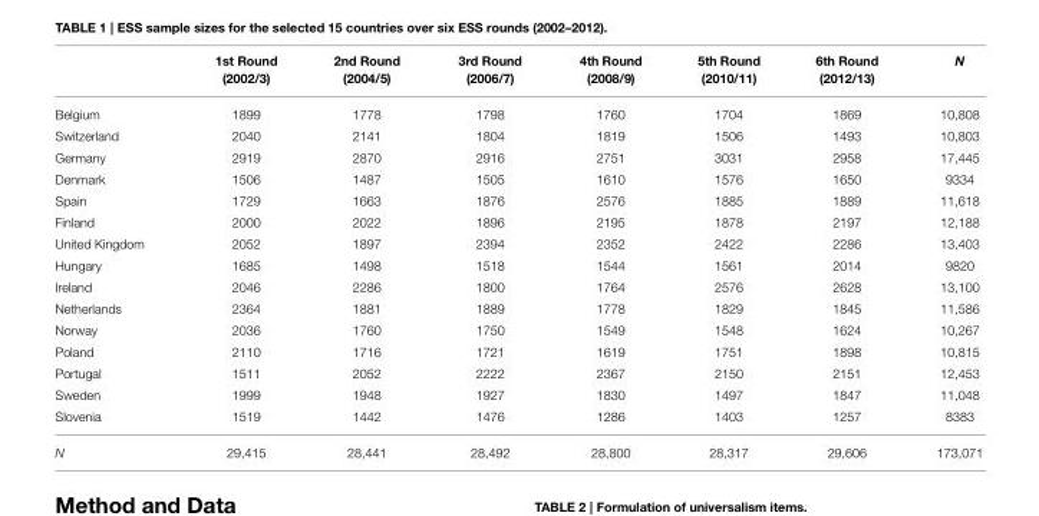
<table><thead><tr><td></td><td>1st Round (2002/3)</td><td>2nd Round (2004/5)</td><td>3rd Round (2006/7)</td><td>4th Round (2008/9)</td><td>5th Round (2010/11)</td><td>6th Round (2012/13)</td><td>N</td></tr></thead><tbody><tr><td>Belgium</td><td>1899</td><td>1778</td><td>1798</td><td>1760</td><td>1704</td><td>1869</td><td>10,808</td></tr><tr><td>Switzerland</td><td>2040</td><td>2141</td><td>1804</td><td>1819</td><td>1506</td><td>1493</td><td>10,803</td></tr><tr><td>Germany</td><td>2919</td><td>2870</td><td>2916</td><td>2751</td><td>3031</td><td>2958</td><td>17,445</td></tr><tr><td>Denmark</td><td>1506</td><td>1487</td><td>1505</td><td>1610</td><td>1576</td><td>1650</td><td>9334</td></tr><tr><td>Spain</td><td>1729</td><td>1663</td><td>1876</td><td>2576</td><td>1885</td><td>1889</td><td>11,618</td></tr><tr><td>Finland</td><td>2000</td><td>2022</td><td>1896</td><td>2195</td><td>1878</td><td>2197</td><td>12,188</td></tr><tr><td>United Kingdom</td><td>2052</td><td>1897</td><td>2394</td><td>2352</td><td>2422</td><td>2286</td><td>13,403</td></tr><tr><td>Hungary</td><td>1685</td><td>1498</td><td>1518</td><td>1544</td><td>1561</td><td>2014</td><td>9820</td></tr><tr><td>Ireland</td><td>2046</td><td>2286</td><td>1800</td><td>1764</td><td>2576</td><td>2628</td><td>13,100</td></tr><tr><td>Netherlands</td><td>2364</td><td>1881</td><td>1889</td><td>1778</td><td>1829</td><td>1845</td><td>11,586</td></tr><tr><td>Norway</td><td>2036</td><td>1760</td><td>1750</td><td>1549</td><td>1548</td><td>1624</td><td>10,267</td></tr><tr><td>Poland</td><td>2110</td><td>1716</td><td>1721</td><td>1619</td><td>1751</td><td>1898</td><td>10,815</td></tr><tr><td>Portugal</td><td>1511</td><td>2052</td><td>2222</td><td>2367</td><td>2150</td><td>2151</td><td>12,453</td></tr><tr><td>Sweden</td><td>1999</td><td>1948</td><td>1927</td><td>1830</td><td>1497</td><td>1847</td><td>11,048</td></tr><tr><td>Slovenia</td><td>1519</td><td>1442</td><td>1476</td><td>1286</td><td>1403</td><td>1257</td><td>8383</td></tr><tr><td>N</td><td>29,415</td><td>28,441</td><td>28,492</td><td>28,800</td><td>28,317</td><td>29,606</td><td>173,071</td></tr></tbody></table>